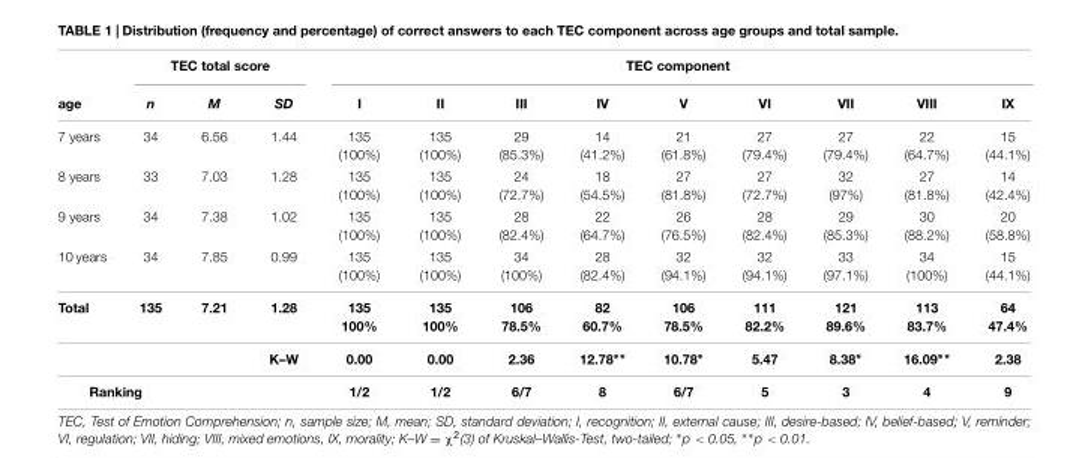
<table><thead><tr><td rowspan="2">age</td><td colspan="3">TEC total score</td><td colspan="9">TEC component</td></tr><tr><td>n</td><td>M</td><td>SD</td><td>I</td><td>II</td><td>III</td><td>IV</td><td>V</td><td>VI</td><td>VII</td><td>VIII</td><td>IX</td></tr></thead><tbody><tr><td>7 years</td><td>34</td><td>6.56</td><td>1.44</td><td>135 (100%)</td><td>135 (100%)</td><td>29 (85.3%)</td><td>14 (41.2%)</td><td>21 (61.8%)</td><td>27 (79.4%)</td><td>27 (79.4%)</td><td>22 (64.7%)</td><td>15 (44.1%)</td></tr><tr><td>8 years</td><td>33</td><td>7.03</td><td>1.28</td><td>135 (100%)</td><td>135 (100%)</td><td>24 (72.7%)</td><td>18 (54.5%)</td><td>27 (81.8%)</td><td>27 (72.7%)</td><td>32 (97%)</td><td>27 (81.8%)</td><td>14 (42.4%)</td></tr><tr><td>9 years</td><td>34</td><td>7.38</td><td>1.02</td><td>135 (100%)</td><td>135 (100%)</td><td>28 (82.4%)</td><td>22 (64.7%)</td><td>26 (76.5%)</td><td>28 (82.4%)</td><td>29 (85.3%)</td><td>30 (88.2%)</td><td>20 (58.8%)</td></tr><tr><td>10 years</td><td>34</td><td>7.85</td><td>0.99</td><td>135 (100%)</td><td>135 (100%)</td><td>34 (100%)</td><td>28 (82.4%)</td><td>32 (94.1%)</td><td>32 (94.1%)</td><td>33 (97.1%)</td><td>34 (100%)</td><td>15 (44.1%)</td></tr><tr><td rowspan="2">Total</td><td>135</td><td>7.21</td><td>1.28</td><td>135 100%</td><td>135 100%</td><td>106 78.5%</td><td>82 60.7%</td><td>106 78.5%</td><td>111 82.2%</td><td>121 89.6%</td><td>113 83.7%</td><td>64 47.4%</td></tr><tr><td></td><td></td><td>K–W</td><td>0.00</td><td>0.00</td><td>2.36</td><td>12.78∗∗</td><td>10.78∗</td><td>5.47</td><td>8.38∗</td><td>16.09∗∗</td><td>2.38</td></tr><tr><td colspan="2">Ranking</td><td></td><td></td><td>1/2</td><td>1/2</td><td>6/7</td><td>8</td><td>6/7</td><td>5</td><td>3</td><td>4</td><td>9</td></tr></tbody></table>